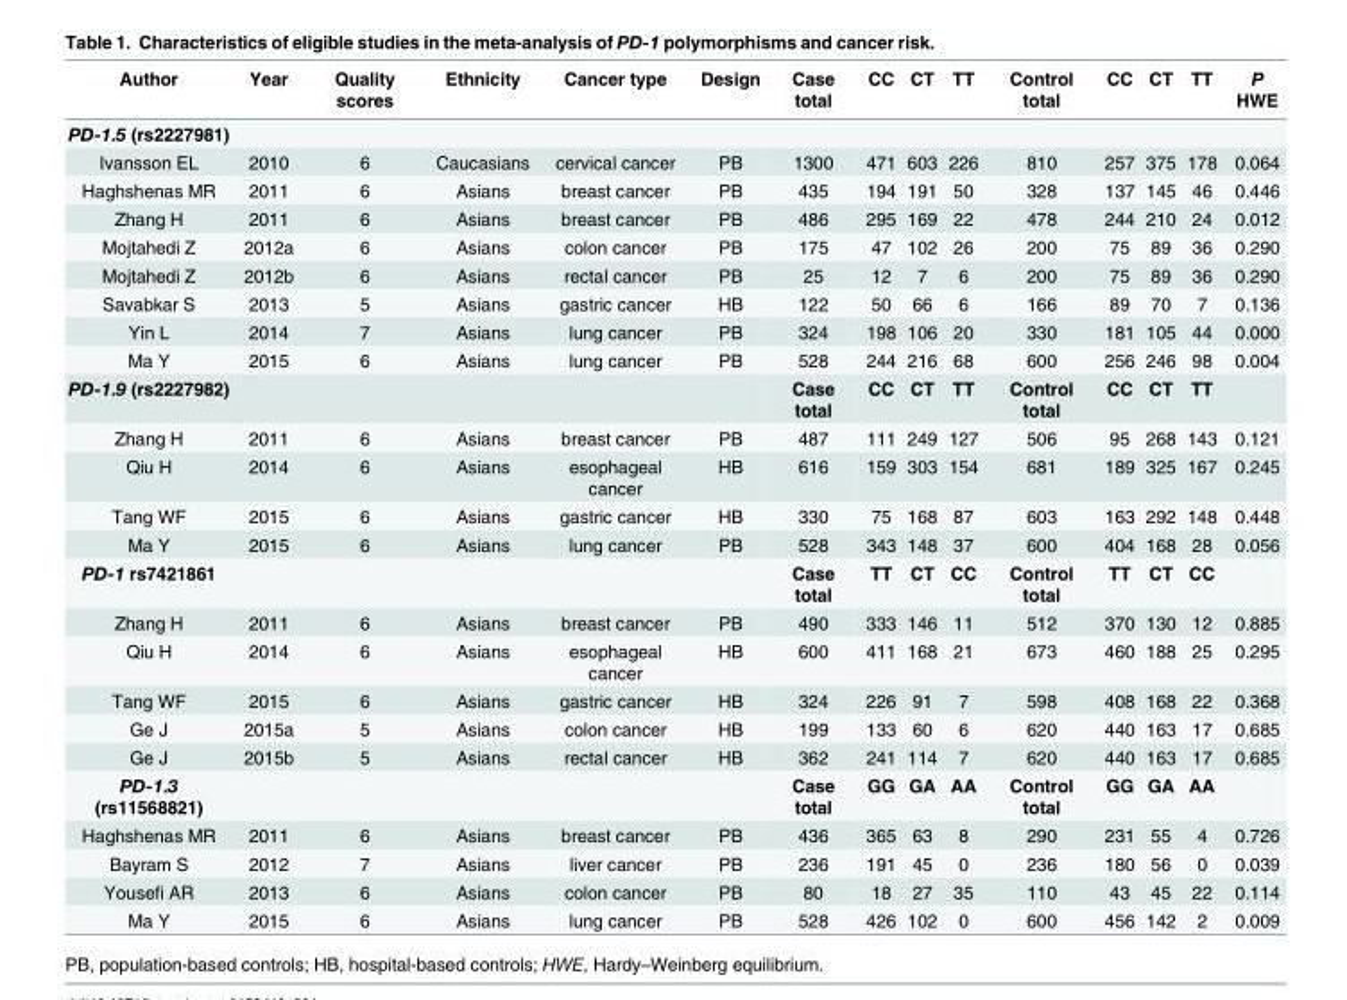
<table><thead><tr><td>Author</td><td>Year</td><td>Quality scores</td><td>Ethnicity</td><td>Cancer type</td><td>Design</td><td>Case total</td><td>CC</td><td>CT</td><td>TT</td><td>Control total</td><td>CC</td><td>CT</td><td>TT</td><td>P HWE</td></tr></thead><tbody><tr><td colspan="15">PD-1.5 (rs2227981)</td></tr><tr><td>Ivansson EL</td><td>2010</td><td>6</td><td>Caucasians</td><td>cervical cancer</td><td>PB</td><td>1300</td><td>471</td><td>603</td><td>226</td><td>810</td><td>257</td><td>375</td><td>178</td><td>0.064</td></tr><tr><td>Haghshenas MR</td><td>2011</td><td>6</td><td>Asians</td><td>breast cancer</td><td>PB</td><td>435</td><td>194</td><td>191</td><td>50</td><td>328</td><td>137</td><td>145</td><td>46</td><td>0.446</td></tr><tr><td>Zhang H</td><td>2011</td><td>6</td><td>Asians</td><td>breast cancer</td><td>PB</td><td>486</td><td>295</td><td>169</td><td>22</td><td>478</td><td>244</td><td>210</td><td>24</td><td>0.012</td></tr><tr><td>Mojtahedi Z</td><td>2012a</td><td>6</td><td>Asians</td><td>colon cancer</td><td>PB</td><td>175</td><td>47</td><td>102</td><td>26</td><td>200</td><td>75</td><td>89</td><td>36</td><td>0.290</td></tr><tr><td>Mojtahedi Z</td><td>2012b</td><td>6</td><td>Asians</td><td>rectal cancer</td><td>PB</td><td>25</td><td>12</td><td>7</td><td>6</td><td>200</td><td>75</td><td>89</td><td>36</td><td>0.290</td></tr><tr><td>Savabkar S</td><td>2013</td><td>5</td><td>Asians</td><td>gastric cancer</td><td>HB</td><td>122</td><td>50</td><td>66</td><td>6</td><td>166</td><td>89</td><td>70</td><td>7</td><td>0.136</td></tr><tr><td>Yin L</td><td>2014</td><td>7</td><td>Asians</td><td>lung cancer</td><td>PB</td><td>324</td><td>198</td><td>106</td><td>20</td><td>330</td><td>181</td><td>105</td><td>44</td><td>0.000</td></tr><tr><td>Ma Y</td><td>2015</td><td>6</td><td>Asians</td><td>lung cancer</td><td>PB</td><td>528</td><td>244</td><td>216</td><td>68</td><td>600</td><td>256</td><td>246</td><td>98</td><td>0.004</td></tr><tr><td>PD-1.9 (rs2227982)</td><td></td><td></td><td></td><td></td><td></td><td>Case total</td><td>CC</td><td>CT</td><td>TT</td><td>Control total</td><td>CC</td><td>CT</td><td>TT</td><td></td></tr><tr><td>Zhang H</td><td>2011</td><td>6</td><td>Asians</td><td>breast cancer</td><td>PB</td><td>487</td><td>111</td><td>249</td><td>127</td><td>506</td><td>95</td><td>268</td><td>143</td><td>0.121</td></tr><tr><td>Qiu H</td><td>2014</td><td>6</td><td>Asians</td><td>esophageal cancer</td><td>HB</td><td>616</td><td>159</td><td>303</td><td>154</td><td>681</td><td>189</td><td>325</td><td>167</td><td>0.245</td></tr><tr><td>Tang WF</td><td>2015</td><td>6</td><td>Asians</td><td>gastric cancer</td><td>HB</td><td>330</td><td>75</td><td>168</td><td>87</td><td>603</td><td>163</td><td>292</td><td>148</td><td>0.448</td></tr><tr><td>Ma Y</td><td>2015</td><td>6</td><td>Asians</td><td>lung cancer</td><td>PB</td><td>528</td><td>343</td><td>148</td><td>37</td><td>600</td><td>404</td><td>168</td><td>28</td><td>0.056</td></tr><tr><td>PD-1 rs7421861</td><td></td><td></td><td></td><td></td><td></td><td>Case total</td><td>TT</td><td>CT</td><td>CC</td><td>Control total</td><td>TT</td><td>CT</td><td>CC</td><td></td></tr><tr><td>Zhang H</td><td>2011</td><td>6</td><td>Asians</td><td>breast cancer</td><td>PB</td><td>490</td><td>333</td><td>146</td><td>11</td><td>512</td><td>370</td><td>130</td><td>12</td><td>0.885</td></tr><tr><td>Qiu H</td><td>2014</td><td>6</td><td>Asians</td><td>esophageal cancer</td><td>HB</td><td>600</td><td>411</td><td>168</td><td>21</td><td>673</td><td>460</td><td>188</td><td>25</td><td>0.295</td></tr><tr><td>Tang WF</td><td>2015</td><td>6</td><td>Asians</td><td>gastric cancer</td><td>HB</td><td>324</td><td>226</td><td>91</td><td>7</td><td>598</td><td>408</td><td>168</td><td>22</td><td>0.368</td></tr><tr><td>Ge J</td><td>2015a</td><td>5</td><td>Asians</td><td>colon cancer</td><td>HB</td><td>199</td><td>133</td><td>60</td><td>6</td><td>620</td><td>440</td><td>163</td><td>17</td><td>0.685</td></tr><tr><td>Ge J</td><td>2015b</td><td>5</td><td>Asians</td><td>rectal cancer</td><td>HB</td><td>362</td><td>241</td><td>114</td><td>7</td><td>620</td><td>440</td><td>163</td><td>17</td><td>0.685</td></tr><tr><td>PD-1.3 (rs11568821)</td><td></td><td></td><td></td><td></td><td></td><td>Case total</td><td>GG</td><td>GA</td><td>AA</td><td>Control total</td><td>GG</td><td>GA</td><td>AA</td><td></td></tr><tr><td>Haghshenas MR</td><td>2011</td><td>6</td><td>Asians</td><td>breast cancer</td><td>PB</td><td>436</td><td>365</td><td>63</td><td>8</td><td>290</td><td>231</td><td>55</td><td>4</td><td>0.726</td></tr><tr><td>Bayram S</td><td>2012</td><td>7</td><td>Asians</td><td>liver cancer</td><td>PB</td><td>236</td><td>191</td><td>45</td><td>0</td><td>236</td><td>180</td><td>56</td><td>0</td><td>0.039</td></tr><tr><td>Yousefi AR</td><td>2013</td><td>6</td><td>Asians</td><td>colon cancer</td><td>PB</td><td>80</td><td>18</td><td>27</td><td>35</td><td>110</td><td>43</td><td>45</td><td>22</td><td>0.114</td></tr><tr><td>Ma Y</td><td>2015</td><td>6</td><td>Asians</td><td>lung cancer</td><td>PB</td><td>528</td><td>426</td><td>102</td><td>0</td><td>600</td><td>456</td><td>142</td><td>2</td><td>0.009</td></tr></tbody></table>